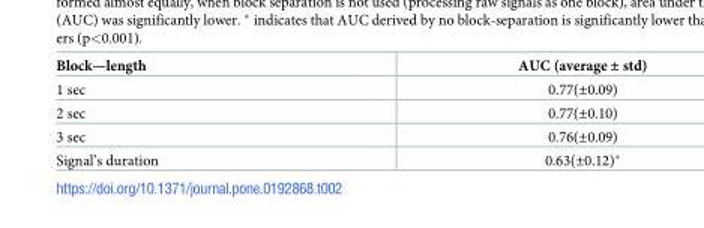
<table><thead><tr><td>Block—length</td><td>AUC (average ± std)</td></tr></thead><tbody><tr><td>1 sec</td><td>0.77(±0.09)</td></tr><tr><td>2 sec</td><td>0.77(±0.10)</td></tr><tr><td>3 sec</td><td>0.76(±0.09)</td></tr><tr><td>Signal’s duration</td><td>0.63(±0.12)*</td></tr></tbody></table>